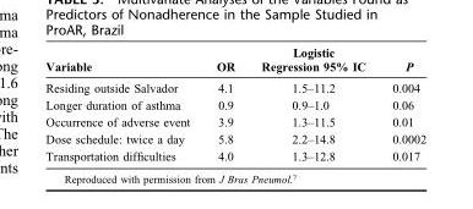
<table><thead><tr><td>Variable</td><td>OR</td><td>Logistic Regression 95% IC</td><td>P</td></tr></thead><tbody><tr><td>Residing outside Salvador</td><td>4.1</td><td>1.5–11.2</td><td>0.004</td></tr><tr><td>Longer duration of asthma</td><td>0.9</td><td>0.9–1.0</td><td>0.06</td></tr><tr><td>Occurrence of adverse event</td><td>3.9</td><td>1.3–11.5</td><td>0.01</td></tr><tr><td>Dose schedule: twice a day</td><td>5.8</td><td>2.2–14.8</td><td>0.0002</td></tr><tr><td>Transportation difficulties</td><td>4.0</td><td>1.3–12.8</td><td>0.017</td></tr></tbody></table>